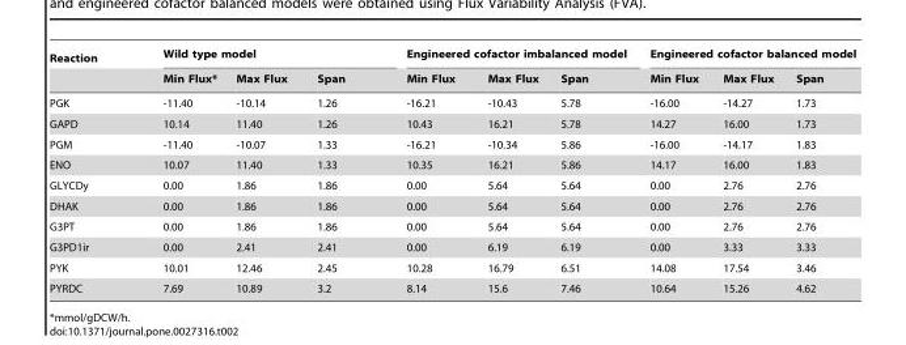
<table><thead><tr><td rowspan="2">Reaction</td><td colspan="3">Wild type model</td><td colspan="3">Engineered cofactor imbalanced model</td><td colspan="3">Engineered cofactor balanced model</td></tr><tr><td>Min Flux*</td><td>Max Flux</td><td>Span</td><td>Min Flux</td><td>Max Flux</td><td>Span</td><td>Min Flux</td><td>Max Flux</td><td>Span</td></tr></thead><tbody><tr><td>PGK</td><td>-11.40</td><td>-10.14</td><td>1.26</td><td>-16.21</td><td>-10.43</td><td>5.78</td><td>-16.00</td><td>-14.27</td><td>1.73</td></tr><tr><td>GAPD</td><td>10.14</td><td>11.40</td><td>1.26</td><td>10.43</td><td>16.21</td><td>5.78</td><td>14.27</td><td>16.00</td><td>1.73</td></tr><tr><td>PGM</td><td>-11.40</td><td>-10.07</td><td>1.33</td><td>-16.21</td><td>-10.34</td><td>5.86</td><td>-16.00</td><td>-14.17</td><td>1.83</td></tr><tr><td>ENO</td><td>10.07</td><td>11.40</td><td>1.33</td><td>10.35</td><td>16.21</td><td>5.86</td><td>14.17</td><td>16.00</td><td>1.83</td></tr><tr><td>GLYCDy</td><td>0.00</td><td>1.86</td><td>1.86</td><td>0.00</td><td>5.64</td><td>5.64</td><td>0.00</td><td>2.76</td><td>2.76</td></tr><tr><td>DHAK</td><td>0.00</td><td>1.86</td><td>1.86</td><td>0.00</td><td>5.64</td><td>5.64</td><td>0.00</td><td>2.76</td><td>2.76</td></tr><tr><td>G3PT</td><td>0.00</td><td>1.86</td><td>1.86</td><td>0.00</td><td>5.64</td><td>5.64</td><td>0.00</td><td>2.76</td><td>2.76</td></tr><tr><td>G3PD1ir</td><td>0.00</td><td>2.41</td><td>2.41</td><td>0.00</td><td>6.19</td><td>6.19</td><td>0.00</td><td>3.33</td><td>3.33</td></tr><tr><td>PYK</td><td>10.01</td><td>12.46</td><td>2.45</td><td>10.28</td><td>16.79</td><td>6.51</td><td>14.08</td><td>17.54</td><td>3.46</td></tr><tr><td>PYRDC</td><td>7.69</td><td>10.89</td><td>3.2</td><td>8.14</td><td>15.6</td><td>7.46</td><td>10.64</td><td>15.26</td><td>4.62</td></tr></tbody></table>